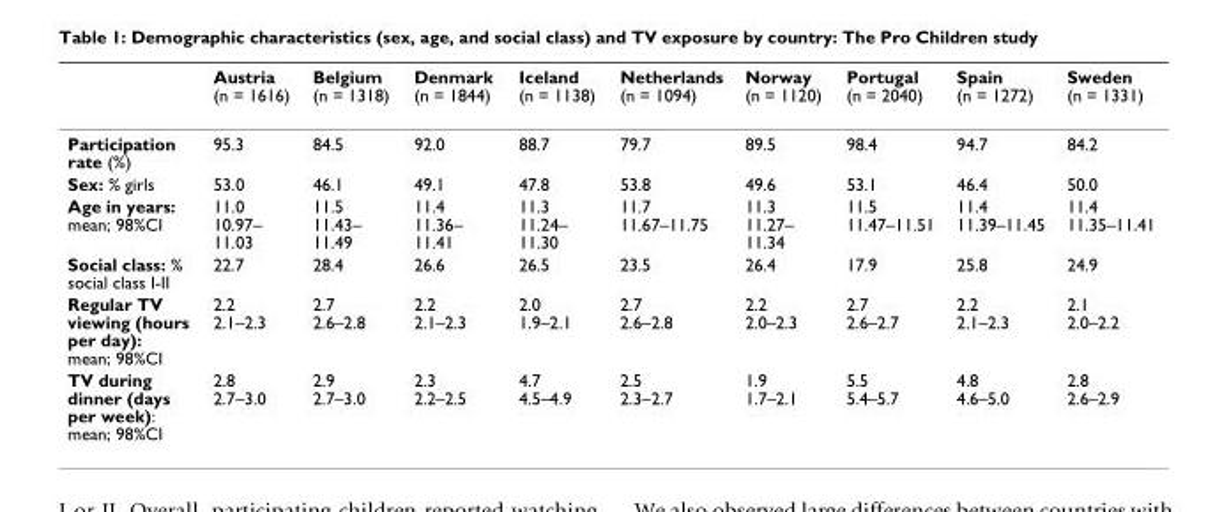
<table><thead><tr><td></td><td>Austria (n = 1616)</td><td>Belgium (n = 1318)</td><td>Denmark (n = 1844)</td><td>Iceland (n = 1138)</td><td>Netherlands (n = 1094)</td><td>Norway (n = 1120)</td><td>Portugal (n = 2040)</td><td>Spain (n = 1272)</td><td>Sweden (n = 1331)</td></tr></thead><tbody><tr><td>Participation rate (%)</td><td>95.3</td><td>84.5</td><td>92.0</td><td>88.7</td><td>79.7</td><td>89.5</td><td>98.4</td><td>94.7</td><td>84.2</td></tr><tr><td>Sex: % girls</td><td>53.0</td><td>46.1</td><td>49.1</td><td>47.8</td><td>53.8</td><td>49.6</td><td>53.1</td><td>46.4</td><td>50.0</td></tr><tr><td>Age in years: mean; 98%CI</td><td>11.0 10.97– 11.03</td><td>11.5 11.43– 11.49</td><td>11.4 11.36– 11.41</td><td>11.3 11.24– 11.30</td><td>11.7 11.67–11.75</td><td>11.3 11.27– 11.34</td><td>11.5 11.47–11.51</td><td>11.4 11.39–11.45</td><td>11.4 11.35–11.41</td></tr><tr><td>Social class: % social class I-II</td><td>22.7</td><td>28.4</td><td>26.6</td><td>26.5</td><td>23.5</td><td>26.4</td><td>17.9</td><td>25.8</td><td>24.9</td></tr><tr><td>Regular TV viewing (hours per day): mean; 98%CI</td><td>2.2 2.1–2.3</td><td>2.7 2.6–2.8</td><td>2.2 2.1–2.3</td><td>2.0 1.9–2.1</td><td>2.7 2.6–2.8</td><td>2.2 2.0–2.3</td><td>2.7 2.6–2.7</td><td>2.2 2.1–2.3</td><td>2.1 2.0–2.2</td></tr><tr><td>TV during dinner (days per week): mean; 98%CI</td><td>2.8 2.7–3.0</td><td>2.9 2.7–3.0</td><td>2.3 2.2–2.5</td><td>4.7 4.5–4.9</td><td>2.5 2.3–2.7</td><td>1.9 1.7–2.1</td><td>5.5 5.4–5.7</td><td>4.8 4.6–5.0</td><td>2.8 2.6–2.9</td></tr></tbody></table>